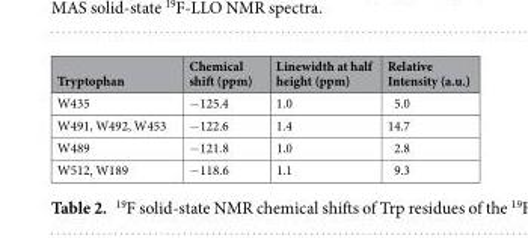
<table><thead><tr><td>Tryptophan</td><td>Chemical shift (ppm)</td><td>Linewidth at half height (ppm)</td><td>Relative Intensity (a.u.)</td></tr></thead><tbody><tr><td>W435</td><td>−125.4</td><td>1.0</td><td>5.0</td></tr><tr><td>W491, W492, W453</td><td>−122.6</td><td>1.4</td><td>14.7</td></tr><tr><td>W489</td><td>−121.8</td><td>1.0</td><td>2.8</td></tr><tr><td>W512, W189</td><td>−118.6</td><td>1.1</td><td>9.3</td></tr></tbody></table>